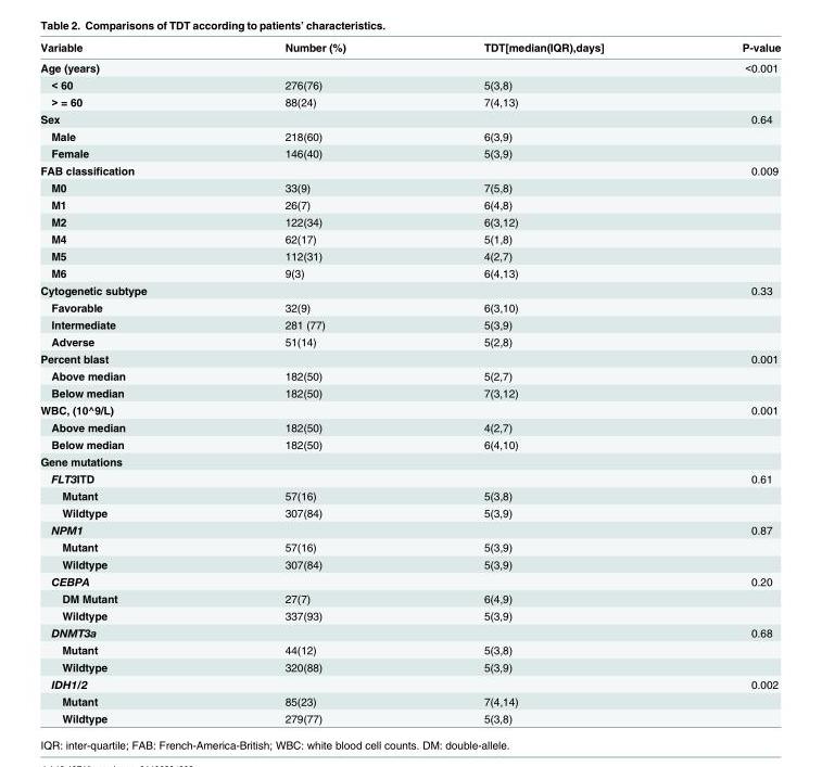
<table><thead><tr><td>Variable</td><td>Number (%)</td><td>TDT[median(IQR),days]</td><td>P-value</td></tr></thead><tbody><tr><td>Age (years)</td><td></td><td></td><td>&lt;0.001</td></tr><tr><td>&lt; 60</td><td>276(76)</td><td>5(3,8)</td><td></td></tr><tr><td>&gt; = 60</td><td>88(24)</td><td>7(4,13)</td><td></td></tr><tr><td>Sex</td><td></td><td></td><td>0.64</td></tr><tr><td>Male</td><td>218(60)</td><td>6(3,9)</td><td></td></tr><tr><td>Female</td><td>146(40)</td><td>5(3,9)</td><td></td></tr><tr><td>FAB classification</td><td></td><td></td><td>0.009</td></tr><tr><td>M0</td><td>33(9)</td><td>7(5,8)</td><td></td></tr><tr><td>M1</td><td>26(7)</td><td>6(4,8)</td><td></td></tr><tr><td>M2</td><td>122(34)</td><td>6(3,12)</td><td></td></tr><tr><td>M4</td><td>62(17)</td><td>5(1,8)</td><td></td></tr><tr><td>M5</td><td>112(31)</td><td>4(2,7)</td><td></td></tr><tr><td>M6</td><td>9(3)</td><td>6(4,13)</td><td></td></tr><tr><td>Cytogenetic subtype</td><td></td><td></td><td>0.33</td></tr><tr><td>Favorable</td><td>32(9)</td><td>6(3,10)</td><td></td></tr><tr><td>Intermediate</td><td>281 (77)</td><td>5(3,9)</td><td></td></tr><tr><td>Adverse</td><td>51(14)</td><td>5(2,8)</td><td></td></tr><tr><td>Percent blast</td><td></td><td></td><td>0.001</td></tr><tr><td>Above median</td><td>182(50)</td><td>5(2,7)</td><td></td></tr><tr><td>Below median</td><td>182(50)</td><td>7(3,12)</td><td></td></tr><tr><td>WBC, (10^9/L)</td><td></td><td></td><td>0.001</td></tr><tr><td>Above median</td><td>182(50)</td><td>4(2,7)</td><td></td></tr><tr><td>Below median</td><td>182(50)</td><td>6(4,10)</td><td></td></tr><tr><td colspan="4">Gene mutations</td></tr><tr><td>FLT3ITD</td><td></td><td></td><td>0.61</td></tr><tr><td>Mutant</td><td>57(16)</td><td>5(3,8)</td><td></td></tr><tr><td>Wildtype</td><td>307(84)</td><td>5(3,9)</td><td></td></tr><tr><td>NPM1</td><td></td><td></td><td>0.87</td></tr><tr><td>Mutant</td><td>57(16)</td><td>5(3,9)</td><td></td></tr><tr><td>Wildtype</td><td>307(84)</td><td>5(3,9)</td><td></td></tr><tr><td>CEBPA</td><td></td><td></td><td>0.20</td></tr><tr><td>DM Mutant</td><td>27(7)</td><td>6(4,9)</td><td></td></tr><tr><td>Wildtype</td><td>337(93)</td><td>5(3,9)</td><td></td></tr><tr><td>DNMT3a</td><td></td><td></td><td>0.68</td></tr><tr><td>Mutant</td><td>44(12)</td><td>5(3,8)</td><td></td></tr><tr><td>Wildtype</td><td>320(88)</td><td>5(3,9)</td><td></td></tr><tr><td>IDH1/2</td><td></td><td></td><td>0.002</td></tr><tr><td>Mutant</td><td>85(23)</td><td>7(4,14)</td><td></td></tr><tr><td>Wildtype</td><td>279(77)</td><td>5(3,8)</td><td></td></tr></tbody></table>